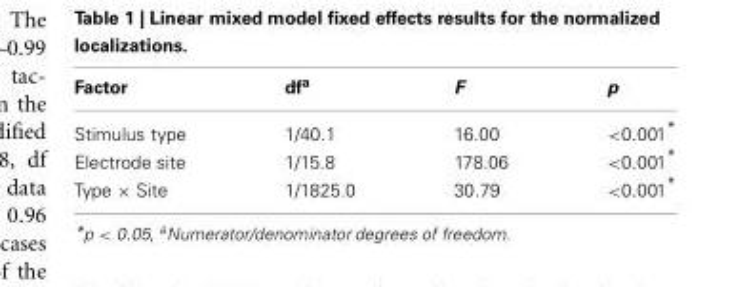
<table><thead><tr><td>Factor</td><td>df<sup>a</sup></td><td>F</td><td>p</td></tr></thead><tbody><tr><td>Stimulus type</td><td>1/40.1</td><td>16.00</td><td>&lt;0.001*</td></tr><tr><td>Electrode site</td><td>1/15.8</td><td>178.06</td><td>&lt;0.001*</td></tr><tr><td>Type × Site</td><td>1/1825.0</td><td>30.79</td><td>&lt;0.001*</td></tr></tbody></table>